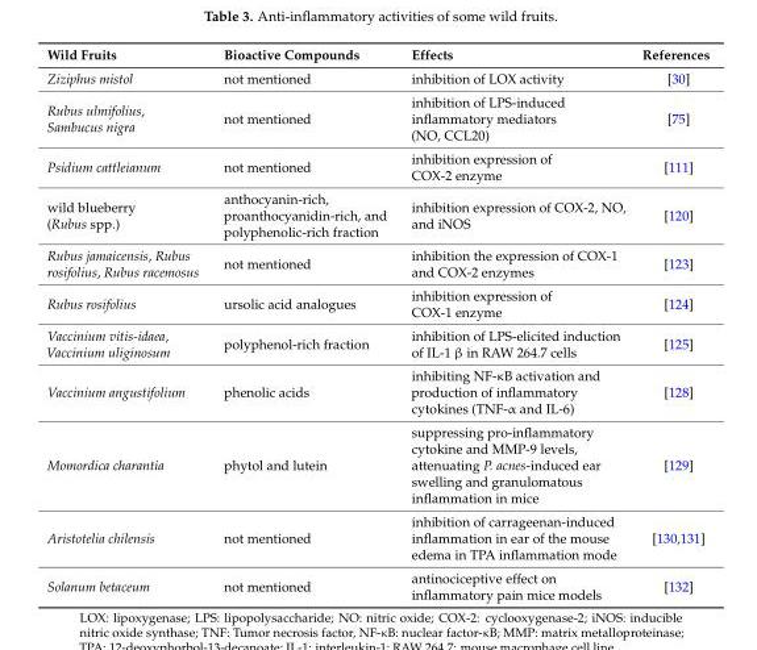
<table><thead><tr><td>Wild Fruits</td><td>Bioactive Compounds</td><td>Effects</td><td>References</td></tr></thead><tbody><tr><td>Ziziphus mistol</td><td>not mentioned</td><td>inhibition of LOX activity</td><td>[30]</td></tr><tr><td>Rubus ulmifolius, Sambucus nigra</td><td>not mentioned</td><td>inhibition of LPS-induced inflammatory mediators (NO, CCL20)</td><td>[75]</td></tr><tr><td>Psidium cattleianum</td><td>not mentioned</td><td>inhibition expression of COX-2 enzyme</td><td>[111]</td></tr><tr><td>wild blueberry (Rubus spp.)</td><td>anthocyanin-rich, proanthocyanidin-rich, and polyphenolic-rich fraction</td><td>inhibition expression of COX-2, NO, and iNOS</td><td>[120]</td></tr><tr><td>Rubus jamaicensis, Rubus rosifolius, Rubus racemosus</td><td>not mentioned</td><td>inhibition the expression of COX-1 and COX-2 enzymes</td><td>[123]</td></tr><tr><td>Rubus rosifolius</td><td>ursolic acid analogues</td><td>inhibition expression of COX-1 enzyme</td><td>[124]</td></tr><tr><td>Vaccinium vitis-idaea, Vaccinium uliginosum</td><td>polyphenol-rich fraction</td><td>inhibition of LPS-elicited induction of IL-1 β in RAW 264.7 cells</td><td>[125]</td></tr><tr><td>Vaccinium angustifolium</td><td>phenolic acids</td><td>inhibiting NF-κB activation and production of inflammatory cytokines (TNF-α and IL-6)</td><td>[128]</td></tr><tr><td>Momordica charantia</td><td>phytol and lutein</td><td>suppressing pro-inflammatory cytokine and MMP-9 levels, attenuating P. acnes-induced ear swelling and granulomatous inflammation in mice</td><td>[129]</td></tr><tr><td>Aristotelia chilensis</td><td>not mentioned</td><td>inhibition of carrageenan-induced inflammation in ear of the mouse edema in TPA inflammation mode</td><td>[130,131]</td></tr><tr><td>Solanum betaceum</td><td>not mentioned</td><td>antinociceptive effect on inflammatory pain mice models</td><td>[132]</td></tr></tbody></table>